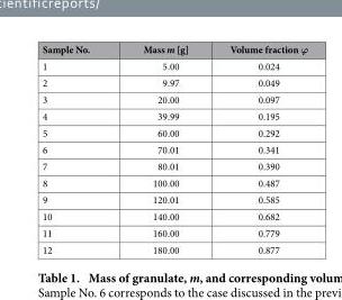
<table><thead><tr><td>Sample No.</td><td>Mass m [g]</td><td>Volume fraction</td></tr></thead><tbody><tr><td>1</td><td>5.00</td><td>0.024</td></tr><tr><td>2</td><td>9.97</td><td>0.049</td></tr><tr><td>3</td><td>20.00</td><td>0.097</td></tr><tr><td>4</td><td>39.99</td><td>0.195</td></tr><tr><td>5</td><td>60.00</td><td>0.292</td></tr><tr><td>6</td><td>70.01</td><td>0.341</td></tr><tr><td>7</td><td>80.01</td><td>0.390</td></tr><tr><td>8</td><td>100.00</td><td>0.487</td></tr><tr><td>9</td><td>120.01</td><td>0.585</td></tr><tr><td>10</td><td>140.00</td><td>0.682</td></tr><tr><td>11</td><td>160.00</td><td>0.779</td></tr><tr><td>12</td><td>180.00</td><td>0.877</td></tr></tbody></table>